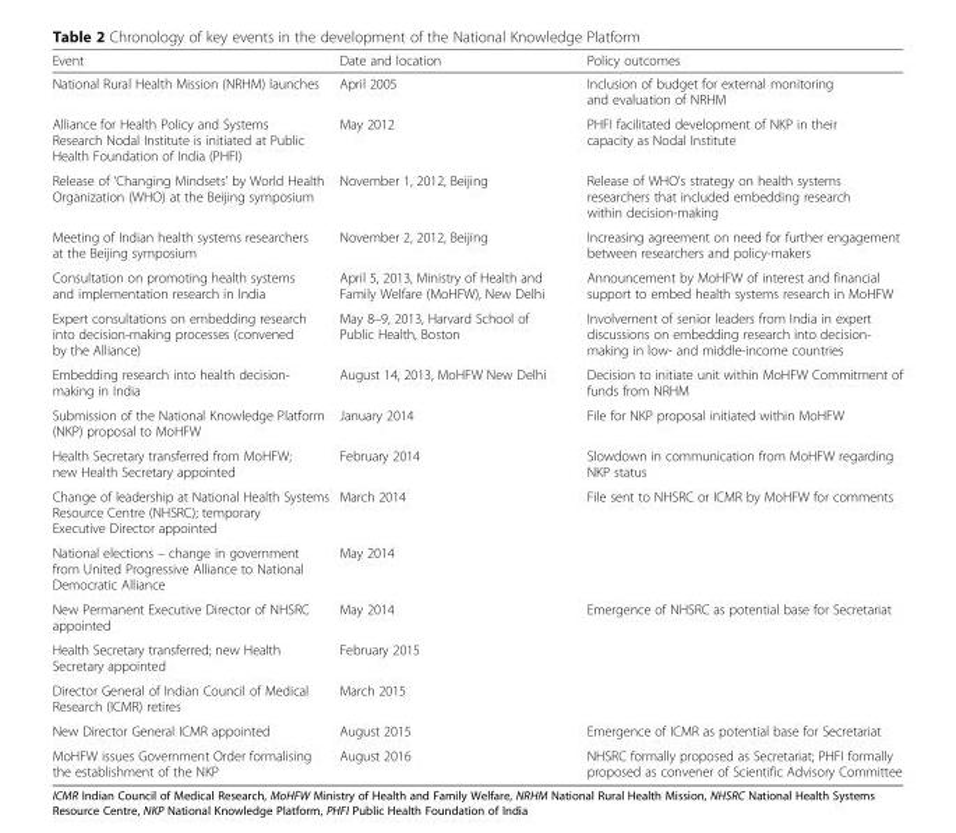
<table><thead><tr><td>Event</td><td>Date and location</td><td>Policy outcomes</td></tr></thead><tbody><tr><td>National Rural Health Mission (NRHM) launches</td><td>April 2005</td><td>Inclusion of budget for external monitoring and evaluation of NRHM</td></tr><tr><td>Alliance for Health Policy and Systems Research Nodal Institute is initiated at Public Health Foundation of India (PHFI)</td><td>May 2012</td><td>PHFI facilitated development of NKP in their capacity as Nodal Institute</td></tr><tr><td>Release of ‘Changing Mindsets’ by World Health Organization (WHO) at the Beijing symposium</td><td>November 1, 2012, Beijing</td><td>Release of WHO’s strategy on health systems researchers that included embedding research within decision-making</td></tr><tr><td>Meeting of Indian health systems researchers at the Beijing symposium</td><td>November 2, 2012, Beijing</td><td>Increasing agreement on need for further engagement between researchers and policy-makers</td></tr><tr><td>Consultation on promoting health systems and implementation research in India</td><td>April 5, 2013, Ministry of Health and Family Welfare (MoHFW), New Delhi</td><td>Announcement by MoHFW of interest and financial support to embed health systems research in MoHFW</td></tr><tr><td>Expert consultations on embedding research into decision-making processes (convened by the Alliance)</td><td>May 8–9, 2013, Harvard School of Public Health, Boston</td><td>Involvement of senior leaders from India in expert discussions on embedding research into decision- making in low- and middle-income countries</td></tr><tr><td>Embedding research into health decision- making in India</td><td>August 14, 2013, MoHFW New Delhi</td><td>Decision to initiate unit within MoHFW Commitment of funds from NRHM</td></tr><tr><td>Submission of the National Knowledge Platform (NKP) proposal to MoHFW</td><td>January 2014</td><td>File for NKP proposal initiated within MoHFW</td></tr><tr><td>Health Secretary transferred from MoHFW; new Health Secretary appointed</td><td>February 2014</td><td>Slowdown in communication from MoHFW regarding NKP status</td></tr><tr><td>Change of leadership at National Health Systems Resource Centre (NHSRC); temporary Executive Director appointed</td><td>March 2014</td><td>File sent to NHSRC or ICMR by MoHFW for comments</td></tr><tr><td>National elections – change in government from United Progressive Alliance to National Democratic Alliance</td><td>May 2014</td><td></td></tr><tr><td>New Permanent Executive Director of NHSRC appointed</td><td>May 2014</td><td>Emergence of NHSRC as potential base for Secretariat</td></tr><tr><td>Health Secretary transferred; new Health Secretary appointed</td><td>February 2015</td><td></td></tr><tr><td>Director General of Indian Council of Medical Research (ICMR) retires</td><td>March 2015</td><td></td></tr><tr><td>New Director General ICMR appointed</td><td>August 2015</td><td>Emergence of ICMR as potential base for Secretariat</td></tr><tr><td>MoHFW issues Government Order formalising the establishment of the NKP</td><td>August 2016</td><td>NHSRC formally proposed as Secretariat; PHFI formally proposed as convener of Scientific Advisory Committee</td></tr></tbody></table>